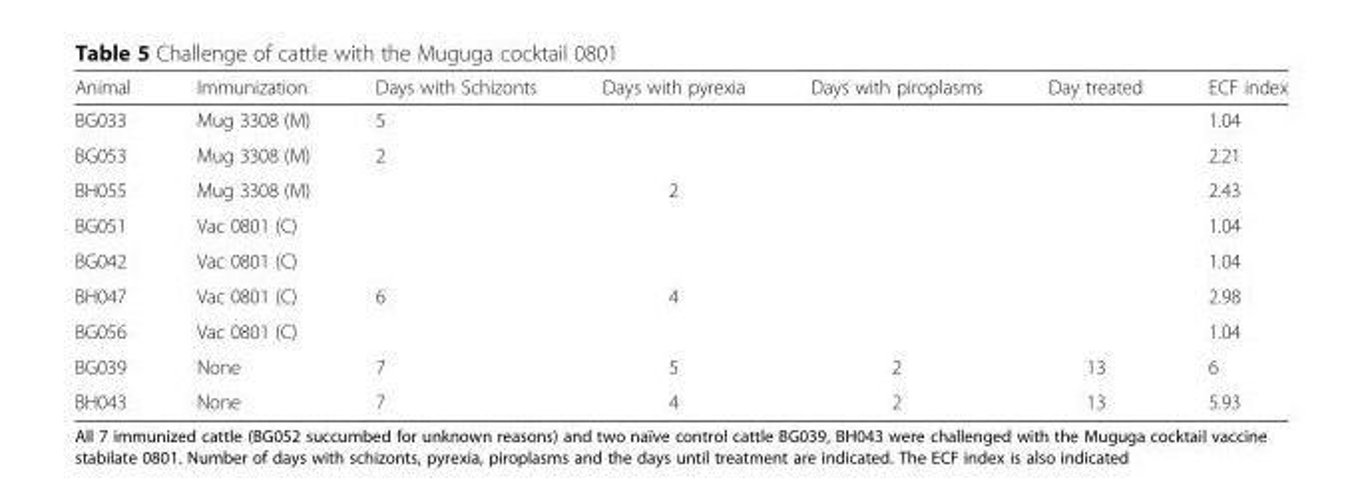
<table><thead><tr><td>Animal</td><td>Immunization</td><td>Days with Schizonts</td><td>Days with pyrexia</td><td>Days with piroplasms</td><td>Day treated</td><td>ECF index</td></tr></thead><tbody><tr><td>BG033</td><td>Mug 3308 (M)</td><td>5</td><td></td><td></td><td></td><td>1.04</td></tr><tr><td>BG053</td><td>Mug 3308 (M)</td><td>2</td><td></td><td></td><td></td><td>2.21</td></tr><tr><td>BH055</td><td>Mug 3308 (M)</td><td></td><td>2</td><td></td><td></td><td>2.43</td></tr><tr><td>BG051</td><td>Vac 0801 (C)</td><td></td><td></td><td></td><td></td><td>1.04</td></tr><tr><td>BG042</td><td>Vac 0801 (C)</td><td></td><td></td><td></td><td></td><td>1.04</td></tr><tr><td>BH047</td><td>Vac 0801 (C)</td><td>6</td><td>4</td><td></td><td></td><td>2.98</td></tr><tr><td>BG056</td><td>Vac 0801 (C)</td><td></td><td></td><td></td><td></td><td>1.04</td></tr><tr><td>BG039</td><td>None</td><td>7</td><td>5</td><td>2</td><td>13</td><td>6</td></tr><tr><td>BH043</td><td>None</td><td>7</td><td>4</td><td>2</td><td>13</td><td>5.93</td></tr></tbody></table>